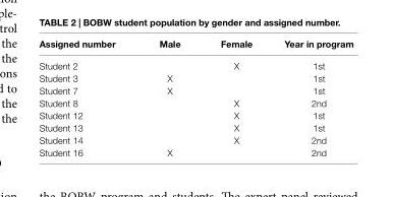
<table><thead><tr><td>assigned number</td><td>Male</td><td>Female</td><td>Year in program</td></tr></thead><tbody><tr><td>Student 2</td><td></td><td>X</td><td>1st</td></tr><tr><td>Student 3</td><td>X</td><td></td><td>1st</td></tr><tr><td>Student 7</td><td>X</td><td></td><td>1st</td></tr><tr><td>Student 8</td><td></td><td>X</td><td>2nd</td></tr><tr><td>Student 12</td><td></td><td>X</td><td>1st</td></tr><tr><td>Student 13</td><td></td><td>X</td><td>1st</td></tr><tr><td>Student 14</td><td></td><td>X</td><td>2nd</td></tr><tr><td>Student 16</td><td>X</td><td></td><td>2nd</td></tr></tbody></table>